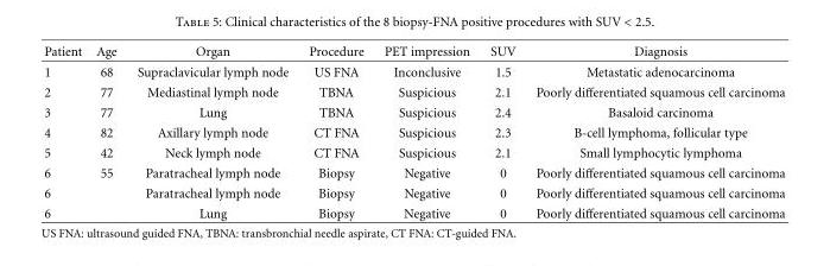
<table><thead><tr><td>Patient</td><td>Age</td><td>Organ</td><td>Procedure</td><td>PET impression</td><td>SUV</td><td>Diagnosis</td></tr></thead><tbody><tr><td>1</td><td>68</td><td>Supraclavicular lymph node</td><td>US FNA</td><td>Inconclusive</td><td>1.5</td><td>Metastatic adenocarcinoma</td></tr><tr><td>2</td><td>77</td><td>Mediastinal lymph node</td><td>TBNA</td><td>Suspicious</td><td>2.1</td><td>Poorly differentiated squamous cell carcinoma</td></tr><tr><td>3</td><td>77</td><td>Lung</td><td>TBNA</td><td>Suspicious</td><td>2.4</td><td>Basaloid carcinoma</td></tr><tr><td>4</td><td>82</td><td>Axillary lymph node</td><td>CT FNA</td><td>Suspicious</td><td>2.3</td><td>B-cell lymphoma, follicular type</td></tr><tr><td>5</td><td>42</td><td>Neck lymph node</td><td>CT FNA</td><td>Suspicious</td><td>2.1</td><td>Small lymphocytic lymphoma</td></tr><tr><td>6</td><td>55</td><td>Paratracheal lymph node</td><td>Biopsy</td><td>Negative</td><td>0</td><td>Poorly differentiated squamous cell carcinoma</td></tr><tr><td>6</td><td></td><td>Paratracheal lymph node</td><td>Biopsy</td><td>Negative</td><td>0</td><td>Poorly differentiated squamous cell carcinoma</td></tr><tr><td>6</td><td></td><td>Lung</td><td>Biopsy</td><td>Negative</td><td>0</td><td>Poorly differentiated squamous cell carcinoma</td></tr></tbody></table>